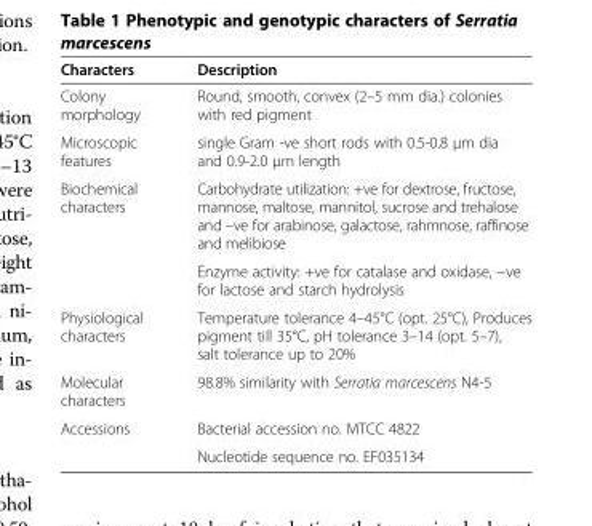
<table><thead><tr><td>Characters</td><td>Description</td></tr></thead><tbody><tr><td>Colony morphology</td><td>Round, smooth, convex (2–5 mm dia.) colonies with red pigment</td></tr><tr><td>Microscopic features</td><td>single Gram -ve short rods with 0.5-0.8 μm dia and 0.9-2.0 μm length</td></tr><tr><td rowspan="2">Biochemical characters</td><td>Carbohydrate utilization: +ve for dextrose, fructose, mannose, maltose, mannitol, sucrose and trehalose and –ve for arabinose, galactose, rahmnose, raffinose and melibiose</td></tr><tr><td>Enzyme activity: +ve for catalase and oxidase, −ve for lactose and starch hydrolysis</td></tr><tr><td>Physiological characters</td><td>Temperature tolerance 4–45°C (opt. 25°C), Produces pigment till 35°C, pH tolerance 3–14 (opt. 5–7), salt tolerance up to 20%</td></tr><tr><td>Molecular characters</td><td>98.8% similarity with Serratia marcescens N4-5</td></tr><tr><td rowspan="2">Accessions</td><td>Bacterial accession no. MTCC 4822</td></tr><tr><td>Nucleotide sequence no. EF035134</td></tr></tbody></table>